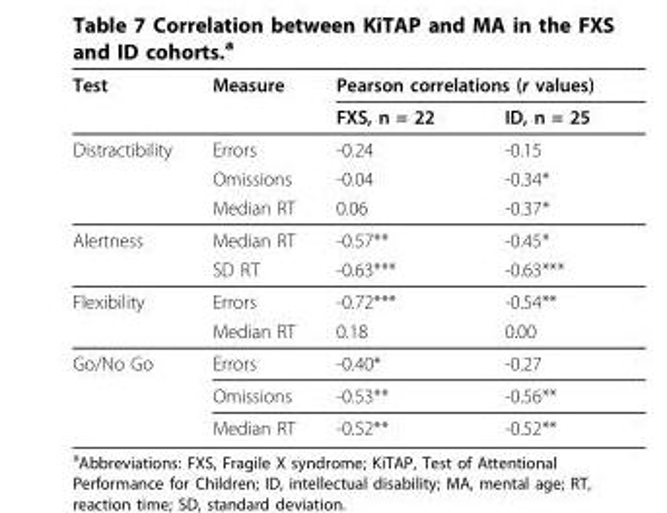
<table><thead><tr><td rowspan="2">Test</td><td rowspan="2">Measure</td><td colspan="2">Pearson correlations (r values)</td></tr><tr><td>FXS, n = 22</td><td>ID, n = 25</td></tr></thead><tbody><tr><td rowspan="3">Distractibility</td><td>Errors</td><td>-0.24</td><td>-0.15</td></tr><tr><td>Omissions</td><td>-0.04</td><td>-0.34*</td></tr><tr><td>Median RT</td><td>0.06</td><td>-0.37*</td></tr><tr><td rowspan="2">Alertness</td><td>Median RT</td><td>-0.57**</td><td>-0.45*</td></tr><tr><td>SD RT</td><td>-0.63***</td><td>-0.63***</td></tr><tr><td rowspan="2">Flexibility</td><td>Errors</td><td>-0.72***</td><td>-0.54**</td></tr><tr><td>Median RT</td><td>0.18</td><td>0.00</td></tr><tr><td rowspan="3">Go/No Go</td><td>Errors</td><td>-0.40*</td><td>-0.27</td></tr><tr><td>Omissions</td><td>-0.53**</td><td>-0.56**</td></tr><tr><td>Median RT</td><td>-0.52**</td><td>-0.52**</td></tr></tbody></table>